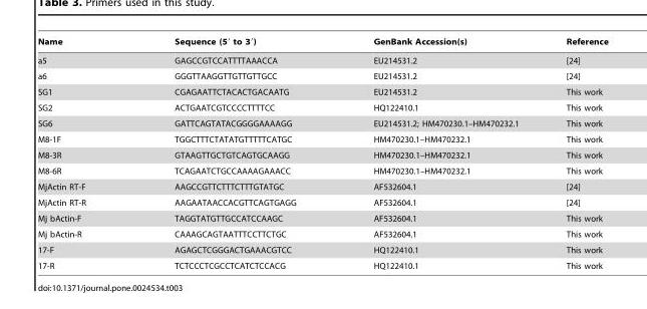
<table><thead><tr><td>Name</td><td>Sequence (5′ to 3′)</td><td>GenBank Accession(s)</td><td>Reference</td></tr></thead><tbody><tr><td>a5</td><td>GAGCCGTCCATTTTAAACCA</td><td>EU214531.2</td><td>[24]</td></tr><tr><td>a6</td><td>GGGTTAAGGTTGTTGTTGCC</td><td>EU214531.2</td><td>[24]</td></tr><tr><td>SG1</td><td>CGAGAATTCTACACTGACAATG</td><td>EU214531.2</td><td>This work</td></tr><tr><td>SG2</td><td>ACTGAATCGTCCCCTTTTCC</td><td>HQ122410.1</td><td>This work</td></tr><tr><td>SG6</td><td>GATTCAGTATACGGGGAAAAGG</td><td>EU214531.2; HM470230.1–HM470232.1</td><td>This work</td></tr><tr><td>M8-1F</td><td>TGGCTTTCTATATGTTTTTCATGC</td><td>HM470230.1–HM470232.1</td><td>This work</td></tr><tr><td>M8-3R</td><td>GTAAGTTGCTGTCAGTGCAAGG</td><td>HM470230.1–HM470232.1</td><td>This work</td></tr><tr><td>M8-6R</td><td>TCAGAATCTGCCAAAAGAAACC</td><td>HM470230.1–HM470232.1</td><td>This work</td></tr><tr><td>MjActin RT-F</td><td>AAGCCGTTCTTTCTTTGTATGC</td><td>AF532604.1</td><td>[24]</td></tr><tr><td>MjActin RT-R</td><td>AAGAATAACCACGTTCAGTGAGG</td><td>AF532604.1</td><td>[24]</td></tr><tr><td>Mj bActin-F</td><td>TAGGTATGTTGCCATCCAAGC</td><td>AF532604.1</td><td>This work</td></tr><tr><td>Mj bActin-R</td><td>CAAAGCAGTAATTTCCTTCTGC</td><td>AF532604.1</td><td>This work</td></tr><tr><td>17-F</td><td>AGAGCTCGGGACTGAAACGTCC</td><td>HQ122410.1</td><td>This work</td></tr><tr><td>17-R</td><td>TCTCCCTCGCCTCATCTCCACG</td><td>HQ122410.1</td><td>This work</td></tr></tbody></table>